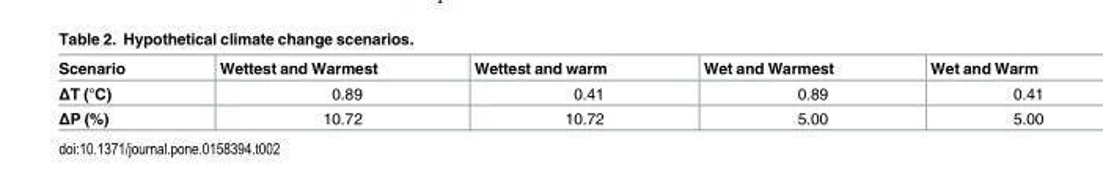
<table><thead><tr><td>Scenario</td><td>Wettest and Warmest</td><td>Wettest and warm</td><td>Wet and Warmest</td><td>Wet and Warm</td></tr></thead><tbody><tr><td>ΔT (°C)</td><td>0.89</td><td>0.41</td><td>0.89</td><td>0.41</td></tr><tr><td>ΔP (%)</td><td>10.72</td><td>10.72</td><td>5.00</td><td>5.00</td></tr></tbody></table>